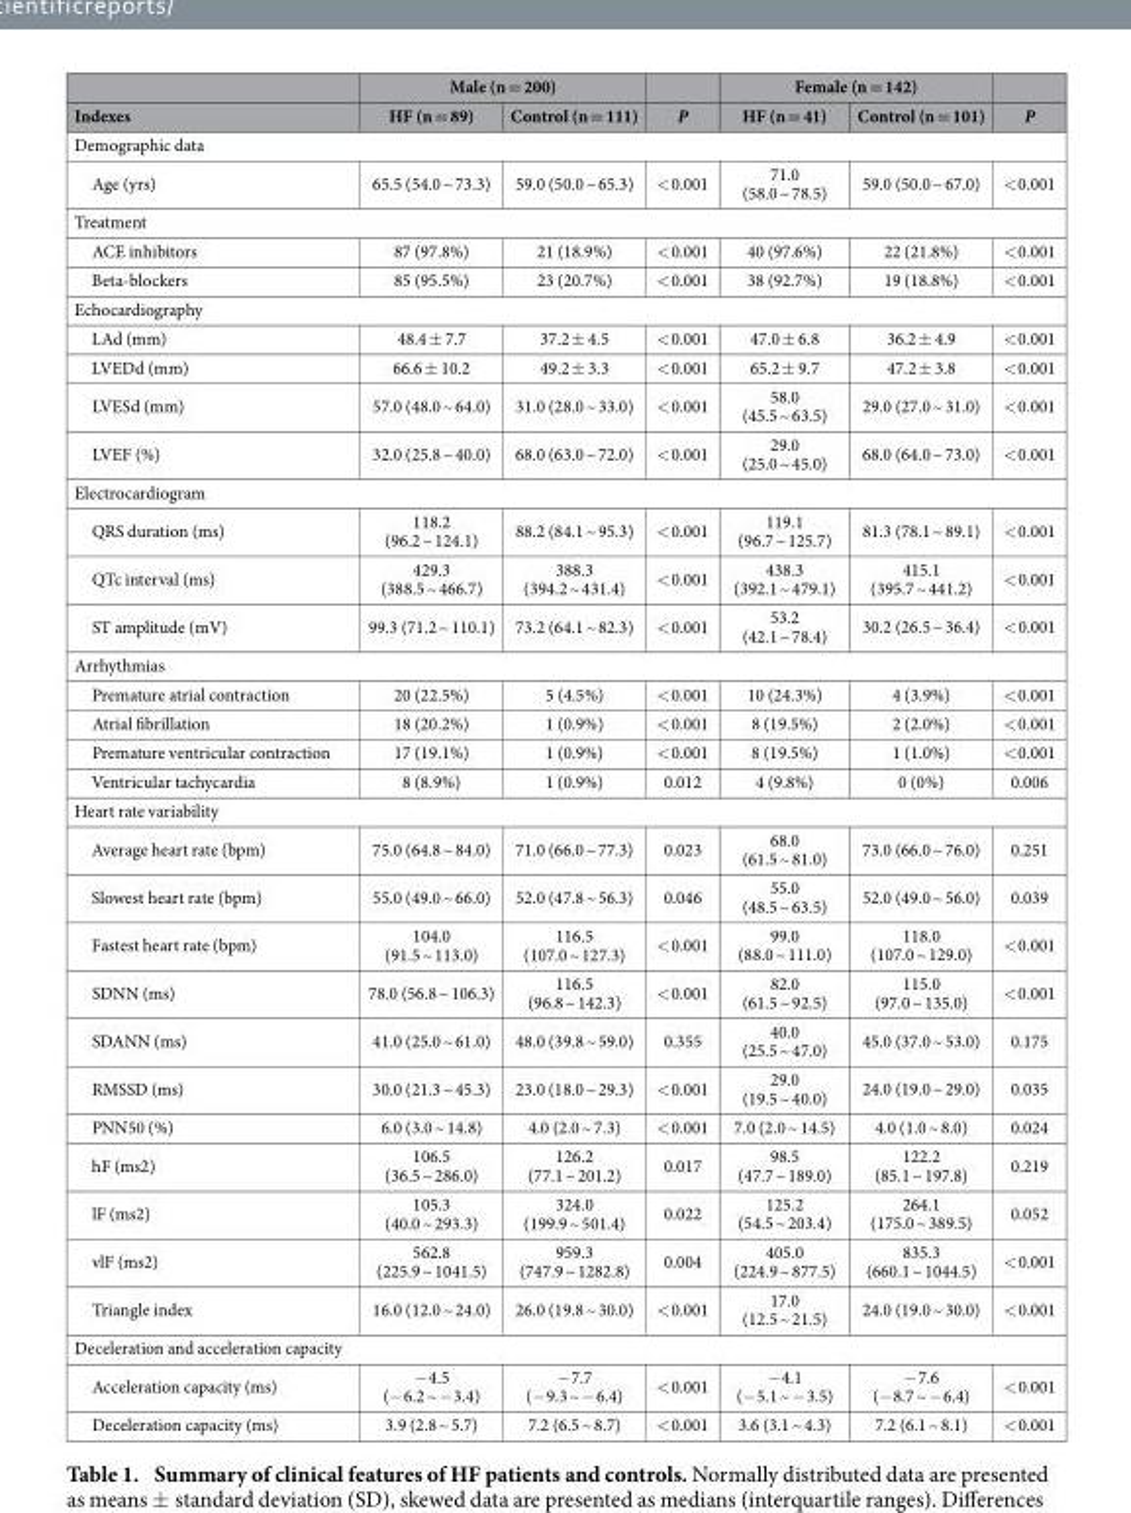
<table><thead><tr><td rowspan="2">Indexes</td><td colspan="2">Male (n = 200)</td><td rowspan="2">P</td><td colspan="2">Female (n = 142)</td><td rowspan="2">P</td></tr><tr><td>HF (n = 89)</td><td>Control (n = 111)</td><td>HF (n = 41)</td><td>Control (n = 101)</td></tr></thead><tbody><tr><td colspan="7">Demographic data</td></tr><tr><td>Age (yrs)</td><td>65.5 (54.0 ~ 73.3)</td><td>59.0 (50.0 ~ 65.3)</td><td>&lt; 0.001</td><td>71.0 (58.0 ~ 78.5)</td><td>59.0 (50.0 ~ 67.0)</td><td>&lt; 0.001</td></tr><tr><td colspan="7">Treatment</td></tr><tr><td>ACE inhibitors</td><td>87 (97.8%)</td><td>21 (18.9%)</td><td>&lt; 0.001</td><td>40 (97.6%)</td><td>22 (21.8%)</td><td>&lt; 0.001</td></tr><tr><td>Beta-blockers</td><td>85 (95.5%)</td><td>23 (20.7%)</td><td>&lt; 0.001</td><td>38 (92.7%)</td><td>19 (18.8%)</td><td>&lt; 0.001</td></tr><tr><td colspan="7">Echocardiography</td></tr><tr><td>LAd (mm)</td><td>48.4 ± 7.7</td><td>37.2 ± 4.5</td><td>&lt; 0.001</td><td>47.0 ± 6.8</td><td>36.2 ± 4.9</td><td>&lt; 0.001</td></tr><tr><td>LVEDd (mm)</td><td>66.6 ± 10.2</td><td>49.2 ± 3.3</td><td>&lt; 0.001</td><td>65.2 ± 9.7</td><td>47.2 ± 3.8</td><td>&lt; 0.001</td></tr><tr><td>LVESd (mm)</td><td>57.0 (48.0 ~ 64.0)</td><td>31.0 (28.0 ~ 33.0)</td><td>&lt; 0.001</td><td>58.0 (45.5 ~ 63.5)</td><td>29.0 (27.0 ~ 31.0)</td><td>&lt; 0.001</td></tr><tr><td>LVEF (%)</td><td>32.0 (25.8 ~ 40.0)</td><td>68.0 (63.0 ~ 72.0)</td><td>&lt; 0.001</td><td>29.0 (25.0 ~ 45.0)</td><td>68.0 (64.0 ~ 73.0)</td><td>&lt; 0.001</td></tr><tr><td colspan="7">Electrocardiogram</td></tr><tr><td>QRS duration (ms)</td><td>118.2 (96.2 ~ 124.1)</td><td>88.2 (84.1 ~ 95.3)</td><td>&lt; 0.001</td><td>119.1 (96.7 ~ 125.7)</td><td>81.3 (78.1 ~ 89.1)</td><td>&lt; 0.001</td></tr><tr><td>QTc interval (ms)</td><td>429.3 (388.5 ~ 466.7)</td><td>388.3 (394.2 ~ 431.4)</td><td>&lt; 0.001</td><td>438.3 (392.1 ~ 479.1)</td><td>415.1 (395.7 ~ 441.2)</td><td>&lt; 0.001</td></tr><tr><td>ST amplitude (mV)</td><td>99.3 (71.2 ~ 110.1)</td><td>73.2 (64.1 ~ 82.3)</td><td>&lt; 0.001</td><td>53.2 (42.1 ~ 78.4)</td><td>30.2 (26.5 ~ 36.4)</td><td>&lt; 0.001</td></tr><tr><td colspan="7">Arrhythmias</td></tr><tr><td>Premature atrial contraction</td><td>20 (22.5%)</td><td>5 (4.5%)</td><td>&lt; 0.001</td><td>10 (24.3%)</td><td>4 (3.9%)</td><td>&lt; 0.001</td></tr><tr><td>Atrial fibrillation</td><td>18 (20.2%)</td><td>1 (0.9%)</td><td>&lt; 0.001</td><td>8 (19.5%)</td><td>2 (2.0%)</td><td>&lt; 0.001</td></tr><tr><td>Premature ventricular contraction</td><td>17 (19.1%)</td><td>1 (0.9%)</td><td>&lt; 0.001</td><td>8 (19.5%)</td><td>1 (1.0%)</td><td>&lt; 0.001</td></tr><tr><td>Ventricular tachycardia</td><td>8 (8.9%)</td><td>1 (0.9%)</td><td>0.012</td><td>4 (9.8%)</td><td>0 (0%)</td><td>0.006</td></tr><tr><td colspan="7">Heart rate variability</td></tr><tr><td>Average heart rate (bpm)</td><td>75.0 (64.8 ~ 84.0)</td><td>71.0 (66.0 ~ 77.3)</td><td>0.023</td><td>68.0 (61.5 ~ 81.0)</td><td>73.0 (66.0 ~ 76.0)</td><td>0.251</td></tr><tr><td>Slowest heart rate (bpm)</td><td>55.0 (49.0 ~ 66.0)</td><td>52.0 (47.8 ~ 56.3)</td><td>0.046</td><td>55.0 (48.5 ~ 63.5)</td><td>52.0 (49.0 ~ 56.0)</td><td>0.039</td></tr><tr><td>Fastest heart rate (bpm)</td><td>104.0 (91.5 ~ 113.0)</td><td>116.5 (107.0 ~ 127.3)</td><td>&lt; 0.001</td><td>99.0 (88.0 ~ 111.0)</td><td>118.0 (107.0 ~ 129.0)</td><td>&lt; 0.001</td></tr><tr><td>SDNN (ms)</td><td>78.0 (56.8 ~ 106.3)</td><td>116.5 (96.8 ~ 142.3)</td><td>&lt; 0.001</td><td>82.0 (61.5 ~ 92.5)</td><td>115.0 (97.0 ~ 135.0)</td><td>&lt; 0.001</td></tr><tr><td>SDANN (ms)</td><td>41.0 (25.0 ~ 61.0)</td><td>48.0 (39.8 ~ 59.0)</td><td>0.355</td><td>40.0 (25.5 ~ 47.0)</td><td>45.0 (37.0 ~ 53.0)</td><td>0.175</td></tr><tr><td>RMSSD (ms)</td><td>30.0 (21.3 ~ 45.3)</td><td>23.0 (18.0 ~ 29.3)</td><td>&lt; 0.001</td><td>29.0 (19.5 ~ 40.0)</td><td>24.0 (19.0 ~ 29.0)</td><td>0.035</td></tr><tr><td>PNN50 (%)</td><td>6.0 (3.0 ~ 14.8)</td><td>4.0 (2.0 ~ 7.3)</td><td>&lt; 0.001</td><td>7.0 (2.0 ~ 14.5)</td><td>4.0 (1.0 ~ 8.0)</td><td>0.024</td></tr><tr><td>hF (ms2)</td><td>106.5 (36.5 ~ 286.0)</td><td>126.2 (77.1 ~ 201.2)</td><td>0.017</td><td>98.5 (47.7 ~ 189.0)</td><td>122.2 (85.1 ~ 197.8)</td><td>0.219</td></tr><tr><td>lF (ms2)</td><td>105.3 (40.0 ~ 293.3)</td><td>324.0 (199.9 ~ 501.4)</td><td>0.022</td><td>125.2 (54.5 ~ 203.4)</td><td>264.1 (175.0 ~ 389.5)</td><td>0.052</td></tr><tr><td>vlF (ms2)</td><td>562.8 (225.9 ~ 1041.5)</td><td>959.3 (747.9 ~ 1282.8)</td><td>0.004</td><td>405.0 (224.9 ~ 877.5)</td><td>835.3 (660.1 ~ 1044.5)</td><td>&lt; 0.001</td></tr><tr><td>Triangle index</td><td>16.0 (12.0 ~ 24.0)</td><td>26.0 (19.8 ~ 30.0)</td><td>&lt; 0.001</td><td>17.0 (12.5 ~ 21.5)</td><td>24.0 (19.0 ~ 30.0)</td><td>&lt; 0.001</td></tr><tr><td colspan="7">Deceleration and acceleration capacity</td></tr><tr><td>Acceleration capacity (ms)</td><td>− 4.5 (− 6.2 ~ − 3.4)</td><td>− 7.7 (− 9.3 ~ − 6.4)</td><td>&lt; 0.001</td><td>− 4.1 (− 5.1 ~ − 3.5)</td><td>− 7.6 (− 8.7 ~ − 6.4)</td><td>&lt; 0.001</td></tr><tr><td>Deceleration capacity (ms)</td><td>3.9 (2.8 ~ 5.7)</td><td>7.2 (6.5 ~ 8.7)</td><td>&lt; 0.001</td><td>3.6 (3.1 ~ 4.3)</td><td>7.2 (6.1 ~ 8.1)</td><td>&lt; 0.001</td></tr></tbody></table>